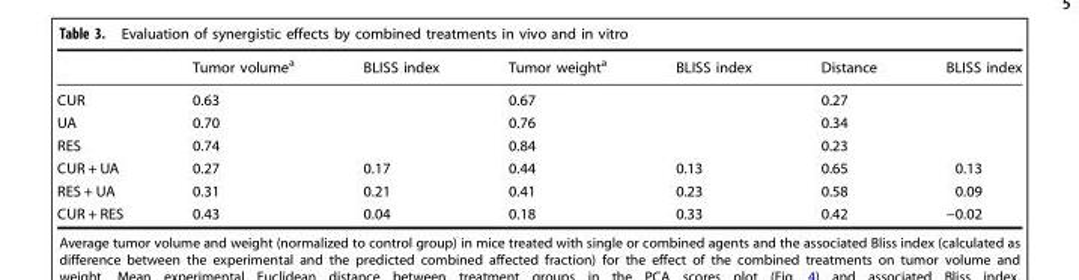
<table><thead><tr><td></td><td>Tumor volume<sup>a</sup></td><td>BLISS index</td><td>Tumor weight<sup>a</sup></td><td>BLISS index</td><td>Distance</td><td>BLISS index</td></tr></thead><tbody><tr><td>CUR</td><td>0.63</td><td></td><td>0.67</td><td></td><td>0.27</td><td></td></tr><tr><td>UA</td><td>0.70</td><td></td><td>0.76</td><td></td><td>0.34</td><td></td></tr><tr><td>RES</td><td>0.74</td><td></td><td>0.84</td><td></td><td>0.23</td><td></td></tr><tr><td>CUR + UA</td><td>0.27</td><td>0.17</td><td>0.44</td><td>0.13</td><td>0.65</td><td>0.13</td></tr><tr><td>RES + UA</td><td>0.31</td><td>0.21</td><td>0.41</td><td>0.23</td><td>0.58</td><td>0.09</td></tr><tr><td>CUR + RES</td><td>0.43</td><td>0.04</td><td>0.18</td><td>0.33</td><td>0.42</td><td>−0.02</td></tr></tbody></table>